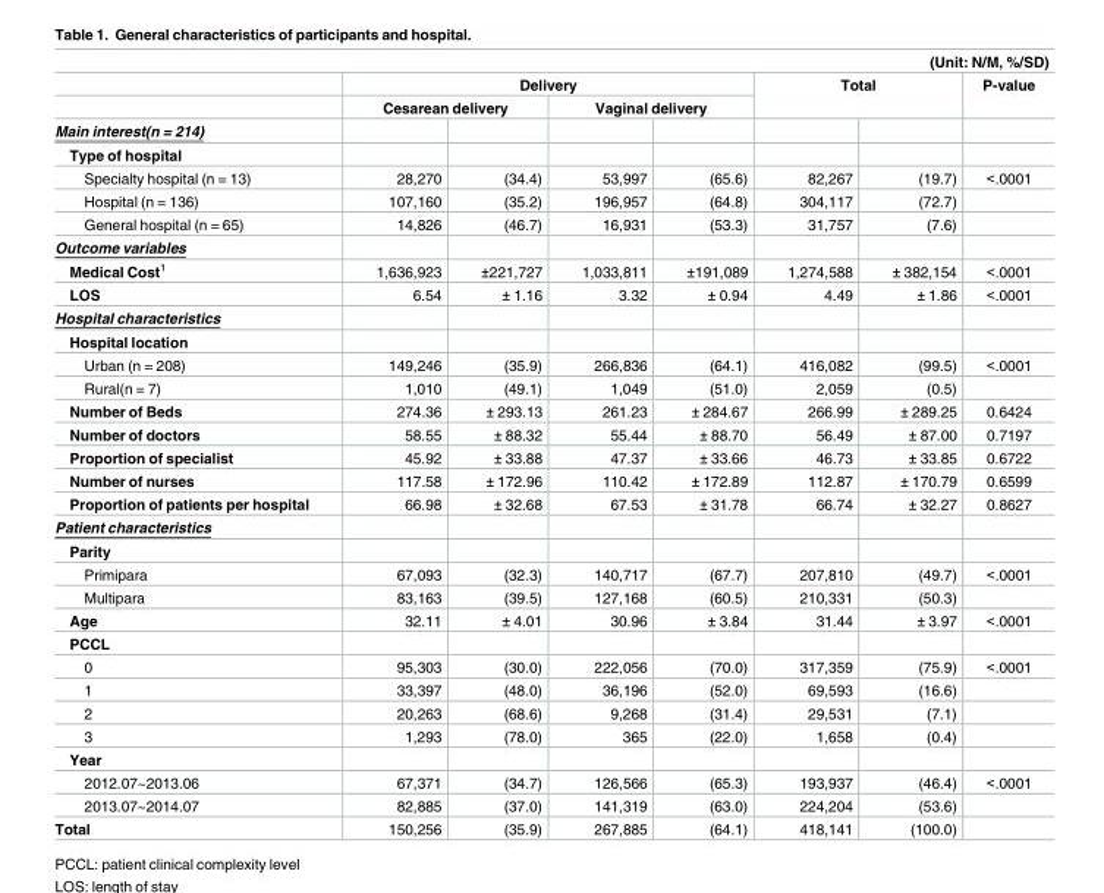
<table><thead><tr><td colspan="8">(Unit: N/M, %/SD)</td></tr><tr><td rowspan="3">Main interest(n = 214)</td><td colspan="4">Delivery</td><td rowspan="2" colspan="2">Total</td><td rowspan="3">P-value</td></tr><tr><td colspan="2">Cesarean delivery</td><td colspan="2">Vaginal delivery</td></tr><tr><td></td><td></td><td></td><td></td><td></td><td></td></tr></thead><tbody><tr><td colspan="8">Type of hospital</td></tr><tr><td>Specialty hospital (n = 13)</td><td>28,270</td><td>(34.4)</td><td>53,997</td><td>(65.6)</td><td>82,267</td><td>(19.7)</td><td>&lt;.0001</td></tr><tr><td>Hospital (n = 136)</td><td>107,160</td><td>(35.2)</td><td>196,957</td><td>(64.8)</td><td>304,117</td><td>(72.7)</td><td></td></tr><tr><td>General hospital (n = 65)</td><td>14,826</td><td>(46.7)</td><td>16,931</td><td>(53.3)</td><td>31,757</td><td>(7.6)</td><td></td></tr><tr><td colspan="8">Outcome variables</td></tr><tr><td>Medical Cost<sup>1</sup></td><td>1,636,923</td><td>±221,727</td><td>1,033,811</td><td>±191,089</td><td>1,274,588</td><td>± 382,154</td><td>&lt;.0001</td></tr><tr><td>LOS</td><td>6.54</td><td>± 1.16</td><td>3.32</td><td>± 0.94</td><td>4.49</td><td>± 1.86</td><td>&lt;.0001</td></tr><tr><td colspan="8">Hospital characteristics</td></tr><tr><td colspan="8">Hospital location</td></tr><tr><td>Urban (n = 208)</td><td>149,246</td><td>(35.9)</td><td>266,836</td><td>(64.1)</td><td>416,082</td><td>(99.5)</td><td>&lt;.0001</td></tr><tr><td>Rural(n = 7)</td><td>1,010</td><td>(49.1)</td><td>1,049</td><td>(51.0)</td><td>2,059</td><td>(0.5)</td><td></td></tr><tr><td>Number of Beds</td><td>274.36</td><td>± 293.13</td><td>261.23</td><td>± 284.67</td><td>266.99</td><td>± 289.25</td><td>0.6424</td></tr><tr><td>Number of doctors</td><td>58.55</td><td>± 88.32</td><td>55.44</td><td>± 88.70</td><td>56.49</td><td>± 87.00</td><td>0.7197</td></tr><tr><td>Proportion of specialist</td><td>45.92</td><td>± 33.88</td><td>47.37</td><td>± 33.66</td><td>46.73</td><td>± 33.85</td><td>0.6722</td></tr><tr><td>Number of nurses</td><td>117.58</td><td>± 172.96</td><td>110.42</td><td>± 172.89</td><td>112.87</td><td>± 170.79</td><td>0.6599</td></tr><tr><td>Proportion of patients per hospital</td><td>66.98</td><td>± 32.68</td><td>67.53</td><td>± 31.78</td><td>66.74</td><td>± 32.27</td><td>0.8627</td></tr><tr><td colspan="8">Patient characteristics</td></tr><tr><td colspan="8">Parity</td></tr><tr><td>Primipara</td><td>67,093</td><td>(32.3)</td><td>140,717</td><td>(67.7)</td><td>207,810</td><td>(49.7)</td><td>&lt;.0001</td></tr><tr><td>Multipara</td><td>83,163</td><td>(39.5)</td><td>127,168</td><td>(60.5)</td><td>210,331</td><td>(50.3)</td><td></td></tr><tr><td>Age</td><td>32.11</td><td>± 4.01</td><td>30.96</td><td>± 3.84</td><td>31.44</td><td>± 3.97</td><td>&lt;.0001</td></tr><tr><td colspan="8">PCCL</td></tr><tr><td>0</td><td>95,303</td><td>(30.0)</td><td>222,056</td><td>(70.0)</td><td>317,359</td><td>(75.9)</td><td>&lt;.0001</td></tr><tr><td>1</td><td>33,397</td><td>(48.0)</td><td>36,196</td><td>(52.0)</td><td>69,593</td><td>(16.6)</td><td></td></tr><tr><td>2</td><td>20,263</td><td>(68.6)</td><td>9,268</td><td>(31.4)</td><td>29,531</td><td>(7.1)</td><td></td></tr><tr><td>3</td><td>1,293</td><td>(78.0)</td><td>365</td><td>(22.0)</td><td>1,658</td><td>(0.4)</td><td></td></tr><tr><td colspan="8">Year</td></tr><tr><td>2012.07~2013.06</td><td>67,371</td><td>(34.7)</td><td>126,566</td><td>(65.3)</td><td>193,937</td><td>(46.4)</td><td>&lt;.0001</td></tr><tr><td>2013.07~2014.07</td><td>82,885</td><td>(37.0)</td><td>141,319</td><td>(63.0)</td><td>224,204</td><td>(53.6)</td><td></td></tr><tr><td>Total</td><td>150,256</td><td>(35.9)</td><td>267,885</td><td>(64.1)</td><td>418,141</td><td>(100.0)</td><td></td></tr></tbody></table>